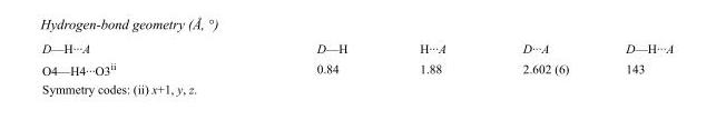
<table><tbody><tr><td>D—H···A</td><td>D—H</td><td>H···A</td><td>D···A</td><td>D—H···A</td></tr><tr><td>O4—H4···O3<sup>ii</sup></td><td>0.84</td><td>1.88</td><td>2.602 (6)</td><td>143</td></tr></tbody></table>